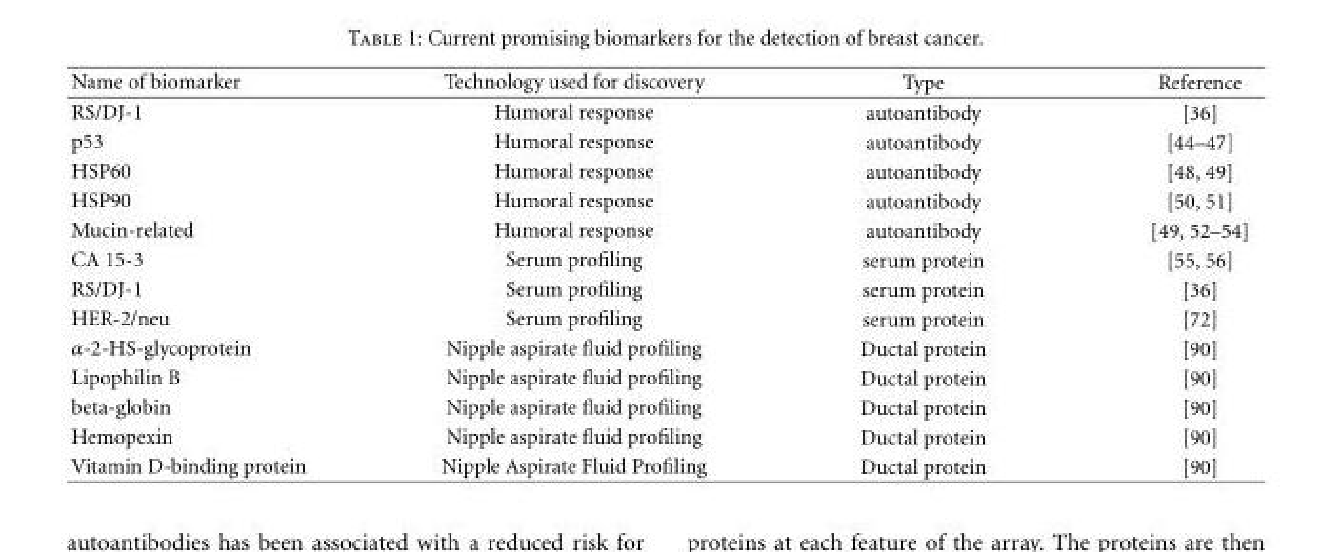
<table><thead><tr><td>Name of biomarker</td><td>Technology used for discovery</td><td>Type</td><td>Reference</td></tr></thead><tbody><tr><td>RS/DJ-1</td><td>Humoral response</td><td>autoantibody</td><td>[36]</td></tr><tr><td>p53</td><td>Humoral response</td><td>autoantibody</td><td>[44–47]</td></tr><tr><td>HSP60</td><td>Humoral response</td><td>autoantibody</td><td>[48, 49]</td></tr><tr><td>HSP90</td><td>Humoral response</td><td>autoantibody</td><td>[50, 51]</td></tr><tr><td>Mucin-related</td><td>Humoral response</td><td>autoantibody</td><td>[49, 52–54]</td></tr><tr><td>CA 15-3</td><td>Serum profiling</td><td>serum protein</td><td>[55, 56]</td></tr><tr><td>RS/DJ-1</td><td>Serum profiling</td><td>serum protein</td><td>[36]</td></tr><tr><td>HER-2/neu</td><td>Serum profiling</td><td>serum protein</td><td>[72]</td></tr><tr><td>α-2-HS-glycoprotein</td><td>Nipple aspirate fluid profiling</td><td>Ductal protein</td><td>[90]</td></tr><tr><td>Lipophilin B</td><td>Nipple aspirate fluid profiling</td><td>Ductal protein</td><td>[90]</td></tr><tr><td>beta-globin</td><td>Nipple aspirate fluid profiling</td><td>Ductal protein</td><td>[90]</td></tr><tr><td>Hemopexin</td><td>Nipple aspirate fluid profiling</td><td>Ductal protein</td><td>[90]</td></tr><tr><td>Vitamin D-binding protein</td><td>Nipple Aspirate Fluid Profiling</td><td>Ductal protein</td><td>[90]</td></tr></tbody></table>